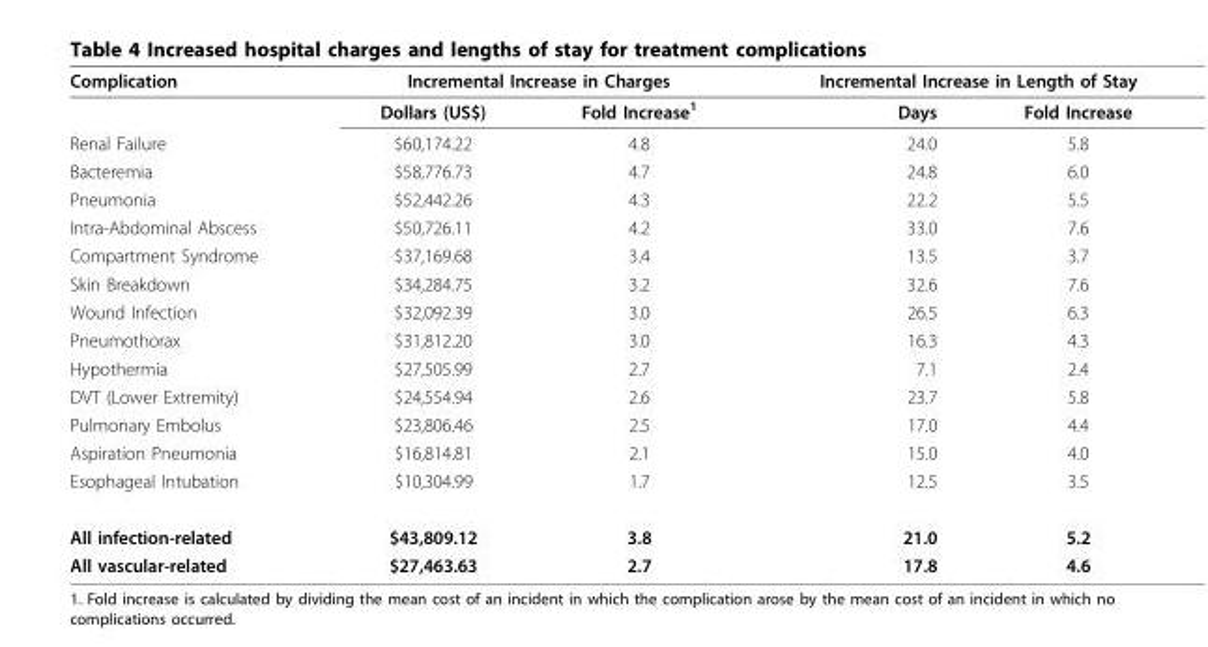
<table><thead><tr><td rowspan="2">Complication</td><td colspan="2">Incremental Increase in Charges</td><td colspan="2">Incremental Increase in Length of Stay</td></tr><tr><td>Dollars (US$)</td><td>Fold Increase<sup>1</sup></td><td>Days</td><td>Fold Increase</td></tr></thead><tbody><tr><td>Renal Failure</td><td>$60,174.22</td><td>4.8</td><td>24.0</td><td>5.8</td></tr><tr><td>Bacteremia</td><td>$58,776.73</td><td>4.7</td><td>24.8</td><td>6.0</td></tr><tr><td>Pneumonia</td><td>$52,442.26</td><td>4.3</td><td>22.2</td><td>5.5</td></tr><tr><td>Intra-Abdominal Abscess</td><td>$50,726.11</td><td>4.2</td><td>33.0</td><td>7.6</td></tr><tr><td>Compartment Syndrome</td><td>$37,169.68</td><td>3.4</td><td>13.5</td><td>3.7</td></tr><tr><td>Skin Breakdown</td><td>$34,284.75</td><td>3.2</td><td>32.6</td><td>7.6</td></tr><tr><td>Wound Infection</td><td>$32,092.39</td><td>3.0</td><td>26.5</td><td>6.3</td></tr><tr><td>Pneumothorax</td><td>$31,812.20</td><td>3.0</td><td>16.3</td><td>4.3</td></tr><tr><td>Hypothermia</td><td>$27,505.99</td><td>2.7</td><td>7.1</td><td>2.4</td></tr><tr><td>DVT (Lower Extremity)</td><td>$24,554.94</td><td>2.6</td><td>23.7</td><td>5.8</td></tr><tr><td>Pulmonary Embolus</td><td>$23,806.46</td><td>2.5</td><td>17.0</td><td>4.4</td></tr><tr><td>Aspiration Pneumonia</td><td>$16,814.81</td><td>2.1</td><td>15.0</td><td>4.0</td></tr><tr><td>Esophageal Intubation</td><td>$10,304.99</td><td>1.7</td><td>12.5</td><td>3.5</td></tr><tr><td>All infection-related</td><td>$43,809.12</td><td>3.8</td><td>21.0</td><td>5.2</td></tr><tr><td>All vascular-related</td><td>$27,463.63</td><td>2.7</td><td>17.8</td><td>4.6</td></tr></tbody></table>